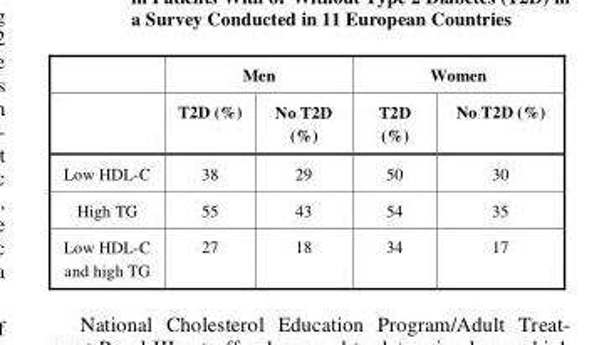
<table><thead><tr><td rowspan="2"></td><td colspan="2">Men</td><td colspan="2">Women</td></tr><tr><td>T2D (%)</td><td>No T2D (%)</td><td>T2D (%)</td><td>No T2D (%)</td></tr></thead><tbody><tr><td>Low HDL-C</td><td>38</td><td>29</td><td>50</td><td>30</td></tr><tr><td>High TG</td><td>55</td><td>43</td><td>54</td><td>35</td></tr><tr><td>Low HDL-C and high TG</td><td>27</td><td>18</td><td>34</td><td>17</td></tr></tbody></table>